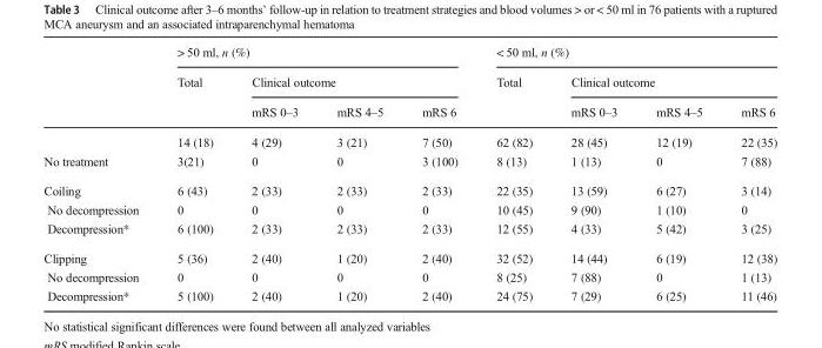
<table><thead><tr><td rowspan="3"></td><td colspan="4">&gt; 50 ml, n (%)</td><td colspan="4">&lt; 50 ml, n (%)</td></tr><tr><td rowspan="2">Total</td><td colspan="3">Clinical outcome</td><td rowspan="2">Total</td><td colspan="3">Clinical outcome</td></tr><tr><td>mRS 0–3</td><td>mRS 4–5</td><td>mRS 6</td><td>mRS 0–3</td><td>mRS 4–5</td><td>mRS 6</td></tr></thead><tbody><tr><td></td><td>14 (18)</td><td>4 (29)</td><td>3 (21)</td><td>7 (50)</td><td>62 (82)</td><td>28 (45)</td><td>12 (19)</td><td>22 (35)</td></tr><tr><td>No treatment</td><td>3(21)</td><td>0</td><td>0</td><td>3 (100)</td><td>8 (13)</td><td>1 (13)</td><td>0</td><td>7 (88)</td></tr><tr><td>Coiling</td><td>6 (43)</td><td>2 (33)</td><td>2 (33)</td><td>2 (33)</td><td>22 (35)</td><td>13 (59)</td><td>6 (27)</td><td>3 (14)</td></tr><tr><td>No decompression</td><td>0</td><td>0</td><td>0</td><td>0</td><td>10 (45)</td><td>9 (90)</td><td>1 (10)</td><td>0</td></tr><tr><td>Decompression*</td><td>6 (100)</td><td>2 (33)</td><td>2 (33)</td><td>2 (33)</td><td>12 (55)</td><td>4 (33)</td><td>5 (42)</td><td>3 (25)</td></tr><tr><td>Clipping</td><td>5 (36)</td><td>2 (40)</td><td>1 (20)</td><td>2 (40)</td><td>32 (52)</td><td>14 (44)</td><td>6 (19)</td><td>12 (38)</td></tr><tr><td>No decompression</td><td>0</td><td>0</td><td>0</td><td>0</td><td>8 (25)</td><td>7 (88)</td><td>0</td><td>1 (13)</td></tr><tr><td>Decompression*</td><td>5 (100)</td><td>2 (40)</td><td>1 (20)</td><td>2 (40)</td><td>24 (75)</td><td>7 (29)</td><td>6 (25)</td><td>11 (46)</td></tr></tbody></table>